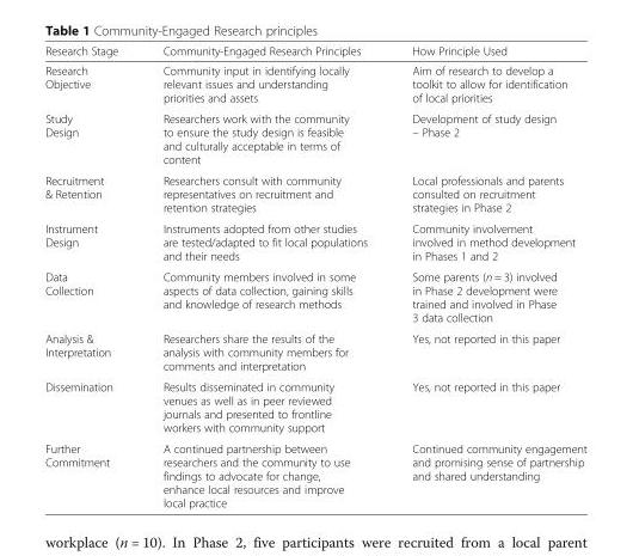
<table><thead><tr><td>Research Stage</td><td>Community-Engaged Research Principles</td><td>How Principle Used</td></tr></thead><tbody><tr><td>Research Objective</td><td>Community input in identifying locally relevant issues and understanding priorities and assets</td><td>Aim of research to develop a toolkit to allow for identification of local priorities</td></tr><tr><td>Study Design</td><td>Researchers work with the community to ensure the study design is feasible and culturally acceptable in terms of content</td><td>Development of study design – Phase 2</td></tr><tr><td>Recruitment &amp; Retention</td><td>Researchers consult with community representatives on recruitment and retention strategies</td><td>Local professionals and parents consulted on recruitment strategies in Phase 2</td></tr><tr><td>Instrument Design</td><td>Instruments adopted from other studies are tested/adapted to fit local populations and their needs</td><td>Community involvement involved in method development in Phases 1 and 2</td></tr><tr><td>Data Collection</td><td>Community members involved in some aspects of data collection, gaining skills and knowledge of research methods</td><td>Some parents (n = 3) involved in Phase 2 development were trained and involved in Phase 3 data collection</td></tr><tr><td>Analysis &amp; Interpretation</td><td>Researchers share the results of the analysis with community members for comments and interpretation</td><td>Yes, not reported in this paper</td></tr><tr><td>Dissemination</td><td>Results disseminated in community venues as well as in peer reviewed journals and presented to frontline workers with community support</td><td>Yes, not reported in this paper</td></tr><tr><td>Further Commitment</td><td>A continued partnership between researchers and the community to use findings to advocate for change, enhance local resources and improve local practice</td><td>Continued community engagement and promising sense of partnership and shared understanding</td></tr></tbody></table>